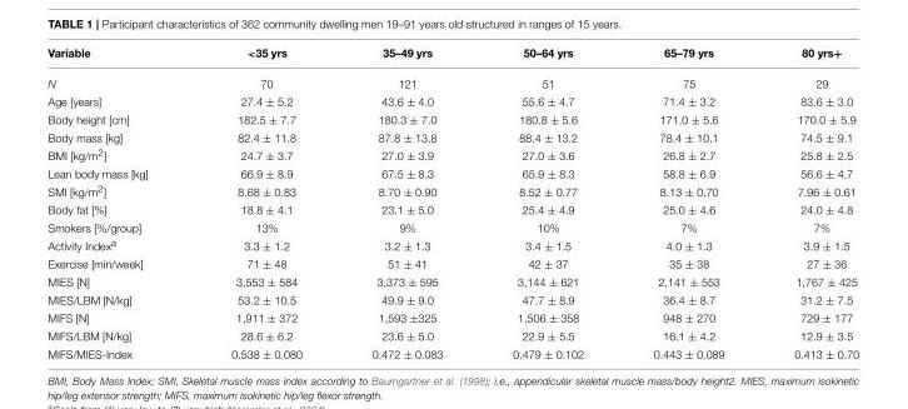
<table><thead><tr><td>Variable</td><td>&lt;35 yrs</td><td>35–49 yrs</td><td>50–64 yrs</td><td>65–79 yrs</td><td>80 yrs+</td></tr></thead><tbody><tr><td>N</td><td>70</td><td>121</td><td>51</td><td>75</td><td>29</td></tr><tr><td>Age [years]</td><td>27.4 ± 5.2</td><td>43.6 ± 4.0</td><td>55.6 ± 4.7</td><td>71.4 ± 3.2</td><td>83.6 ± 3.0</td></tr><tr><td>Body height [cm]</td><td>182.5 ± 7.7</td><td>180.3 ± 7.0</td><td>180.8 ± 5.6</td><td>171.0 ± 5.6</td><td>170.0 ± 5.9</td></tr><tr><td>Body mass [kg]</td><td>82.4 ± 11.8</td><td>87.8 ± 13.8</td><td>88.4 ± 13.2</td><td>78.4 ± 10.1</td><td>74.5 ± 9.1</td></tr><tr><td>BMI [kg/m<sup>2</sup>]</td><td>24.7 ± 3.7</td><td>27.0 ± 3.9</td><td>27.0 ± 3.6</td><td>26.8 ± 2.7</td><td>25.8 ± 2.5</td></tr><tr><td>Lean body mass [kg]</td><td>66.9 ± 8.9</td><td>67.5 ± 8.3</td><td>65.9 ± 8.3</td><td>58.8 ± 6.9</td><td>56.6 ± 4.7</td></tr><tr><td>SMI [kg/m<sup>2</sup>]</td><td>8.68 ± 0.83</td><td>8.70 ± 0.90</td><td>8.52 ± 0.77</td><td>8.13 ± 0.70</td><td>7.96 ± 0.61</td></tr><tr><td>Body fat [%]</td><td>18.8 ± 4.1</td><td>23.1 ± 5.0</td><td>25.4 ± 4.9</td><td>25.0 ± 4.6</td><td>24.0 ± 4.8</td></tr><tr><td>Smokers [%/group]</td><td>13%</td><td>9%</td><td>10%</td><td>7%</td><td>7%</td></tr><tr><td>Activity Index<sup>a</sup></td><td>3.3 ± 1.2</td><td>3.2 ± 1.3</td><td>3.4 ± 1.5</td><td>4.0 ± 1.3</td><td>3.9 ± 1.5</td></tr><tr><td>Exercise [min/week]</td><td>71 ± 48</td><td>51 ± 41</td><td>42 ± 37</td><td>35 ± 38</td><td>27 ± 36</td></tr><tr><td>MIES [N]</td><td>3,553 ± 584</td><td>3,373 ± 595</td><td>3,144 ± 621</td><td>2,141 ± 553</td><td>1,767 ± 425</td></tr><tr><td>MIES/LBM [N/kg]</td><td>53.2 ± 10.5</td><td>49.9 ± 9.0</td><td>47.7 ± 8.9</td><td>36.4 ± 8.7</td><td>31.2 ± 7.5</td></tr><tr><td>MIFS [N]</td><td>1,911 ± 372</td><td>1,593 ±325</td><td>1,506 ± 358</td><td>948 ± 270</td><td>729 ± 177</td></tr><tr><td>MIFS/LBM [N/kg]</td><td>28.6 ± 6.2</td><td>23.6 ± 5.0</td><td>22.9 ± 5.5</td><td>16.1 ± 4.2</td><td>12.9 ± 3.5</td></tr><tr><td>MIFS/MIES-Index</td><td>0.538 ± 0.080</td><td>0.472 ± 0.083</td><td>0.479 ± 0.102</td><td>0.443 ± 0.089</td><td>0.413 ± 0.70</td></tr></tbody></table>